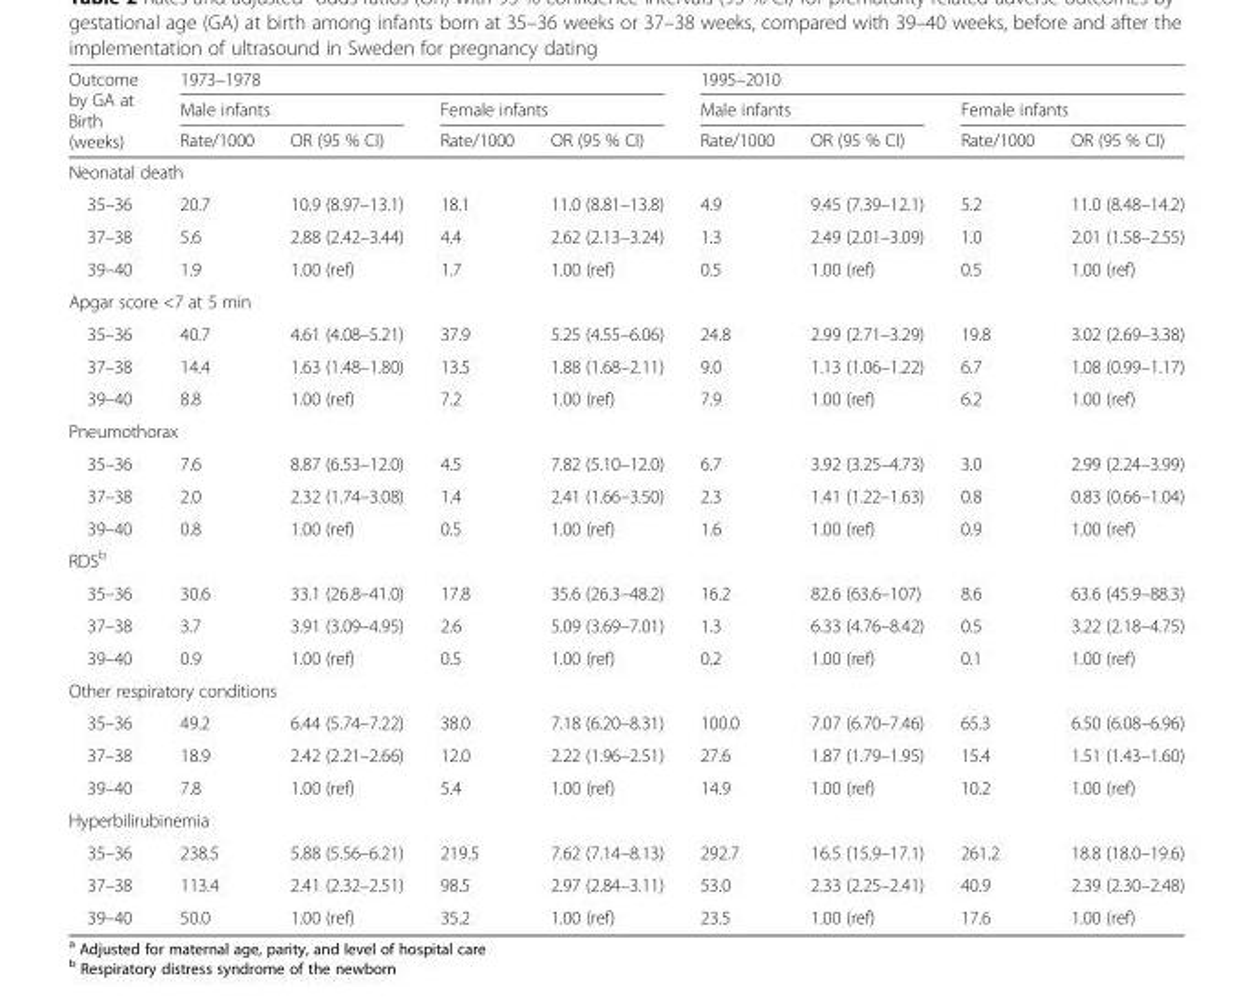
<table><thead><tr><td rowspan="3">Outcome by GA at Birth (weeks)</td><td colspan="4">1973–1978</td><td colspan="4">1995–2010</td></tr><tr><td colspan="2">Male infants</td><td colspan="2">Female infants</td><td colspan="2">Male infants</td><td colspan="2">Female infants</td></tr><tr><td>Rate/1000</td><td>OR (95 % CI)</td><td>Rate/1000</td><td>OR (95 % CI)</td><td>Rate/1000</td><td>OR (95 % CI)</td><td>Rate/1000</td><td>OR (95 % CI)</td></tr></thead><tbody><tr><td colspan="9">Neonatal death</td></tr><tr><td>35–36</td><td>20.7</td><td>10.9 (8.97–13.1)</td><td>18.1</td><td>11.0 (8.81–13.8)</td><td>4.9</td><td>9.45 (7.39–12.1)</td><td>5.2</td><td>11.0 (8.48–14.2)</td></tr><tr><td>37–38</td><td>5.6</td><td>2.88 (2.42–3.44)</td><td>4.4</td><td>2.62 (2.13–3.24)</td><td>1.3</td><td>2.49 (2.01–3.09)</td><td>1.0</td><td>2.01 (1.58–2.55)</td></tr><tr><td>39–40</td><td>1.9</td><td>1.00 (ref)</td><td>1.7</td><td>1.00 (ref)</td><td>0.5</td><td>1.00 (ref)</td><td>0.5</td><td>1.00 (ref)</td></tr><tr><td colspan="9">Apgar score &lt;7 at 5 min</td></tr><tr><td>35–36</td><td>40.7</td><td>4.61 (4.08–5.21)</td><td>37.9</td><td>5.25 (4.55–6.06)</td><td>24.8</td><td>2.99 (2.71–3.29)</td><td>19.8</td><td>3.02 (2.69–3.38)</td></tr><tr><td>37–38</td><td>14.4</td><td>1.63 (1.48–1.80)</td><td>13.5</td><td>1.88 (1.68–2.11)</td><td>9.0</td><td>1.13 (1.06–1.22)</td><td>6.7</td><td>1.08 (0.99–1.17)</td></tr><tr><td>39–40</td><td>8.8</td><td>1.00 (ref)</td><td>7.2</td><td>1.00 (ref)</td><td>7.9</td><td>1.00 (ref)</td><td>6.2</td><td>1.00 (ref)</td></tr><tr><td colspan="9">Pneumothorax</td></tr><tr><td>35–36</td><td>7.6</td><td>8.87 (6.53–12.0)</td><td>4.5</td><td>7.82 (5.10–12.0)</td><td>6.7</td><td>3.92 (3.25–4.73)</td><td>3.0</td><td>2.99 (2.24–3.99)</td></tr><tr><td>37–38</td><td>2.0</td><td>2.32 (1.74–3.08)</td><td>1.4</td><td>2.41 (1.66–3.50)</td><td>2.3</td><td>1.41 (1.22–1.63)</td><td>0.8</td><td>0.83 (0.66–1.04)</td></tr><tr><td>39–40</td><td>0.8</td><td>1.00 (ref)</td><td>0.5</td><td>1.00 (ref)</td><td>1.6</td><td>1.00 (ref)</td><td>0.9</td><td>1.00 (ref)</td></tr><tr><td colspan="9">RDS<sup>b</sup></td></tr><tr><td>35–36</td><td>30.6</td><td>33.1 (26.8–41.0)</td><td>17.8</td><td>35.6 (26.3–48.2)</td><td>16.2</td><td>82.6 (63.6–107)</td><td>8.6</td><td>63.6 (45.9–88.3)</td></tr><tr><td>37–38</td><td>3.7</td><td>3.91 (3.09–4.95)</td><td>2.6</td><td>5.09 (3.69–7.01)</td><td>1.3</td><td>6.33 (4.76–8.42)</td><td>0.5</td><td>3.22 (2.18–4.75)</td></tr><tr><td>39–40</td><td>0.9</td><td>1.00 (ref)</td><td>0.5</td><td>1.00 (ref)</td><td>0.2</td><td>1.00 (ref)</td><td>0.1</td><td>1.00 (ref)</td></tr><tr><td colspan="9">Other respiratory conditions</td></tr><tr><td>35–36</td><td>49.2</td><td>6.44 (5.74–7.22)</td><td>38.0</td><td>7.18 (6.20–8.31)</td><td>100.0</td><td>7.07 (6.70–7.46)</td><td>65.3</td><td>6.50 (6.08–6.96)</td></tr><tr><td>37–38</td><td>18.9</td><td>2.42 (2.21–2.66)</td><td>12.0</td><td>2.22 (1.96–2.51)</td><td>27.6</td><td>1.87 (1.79–1.95)</td><td>15.4</td><td>1.51 (1.43–1.60)</td></tr><tr><td>39–40</td><td>7.8</td><td>1.00 (ref)</td><td>5.4</td><td>1.00 (ref)</td><td>14.9</td><td>1.00 (ref)</td><td>10.2</td><td>1.00 (ref)</td></tr><tr><td colspan="9">Hyperbilirubinemia</td></tr><tr><td>35–36</td><td>238.5</td><td>5.88 (5.56–6.21)</td><td>219.5</td><td>7.62 (7.14–8.13)</td><td>292.7</td><td>16.5 (15.9–17.1)</td><td>261.2</td><td>18.8 (18.0–19.6)</td></tr><tr><td>37–38</td><td>113.4</td><td>2.41 (2.32–2.51)</td><td>98.5</td><td>2.97 (2.84–3.11)</td><td>53.0</td><td>2.33 (2.25–2.41)</td><td>40.9</td><td>2.39 (2.30–2.48)</td></tr><tr><td>39–40</td><td>50.0</td><td>1.00 (ref)</td><td>35.2</td><td>1.00 (ref)</td><td>23.5</td><td>1.00 (ref)</td><td>17.6</td><td>1.00 (ref)</td></tr></tbody></table>